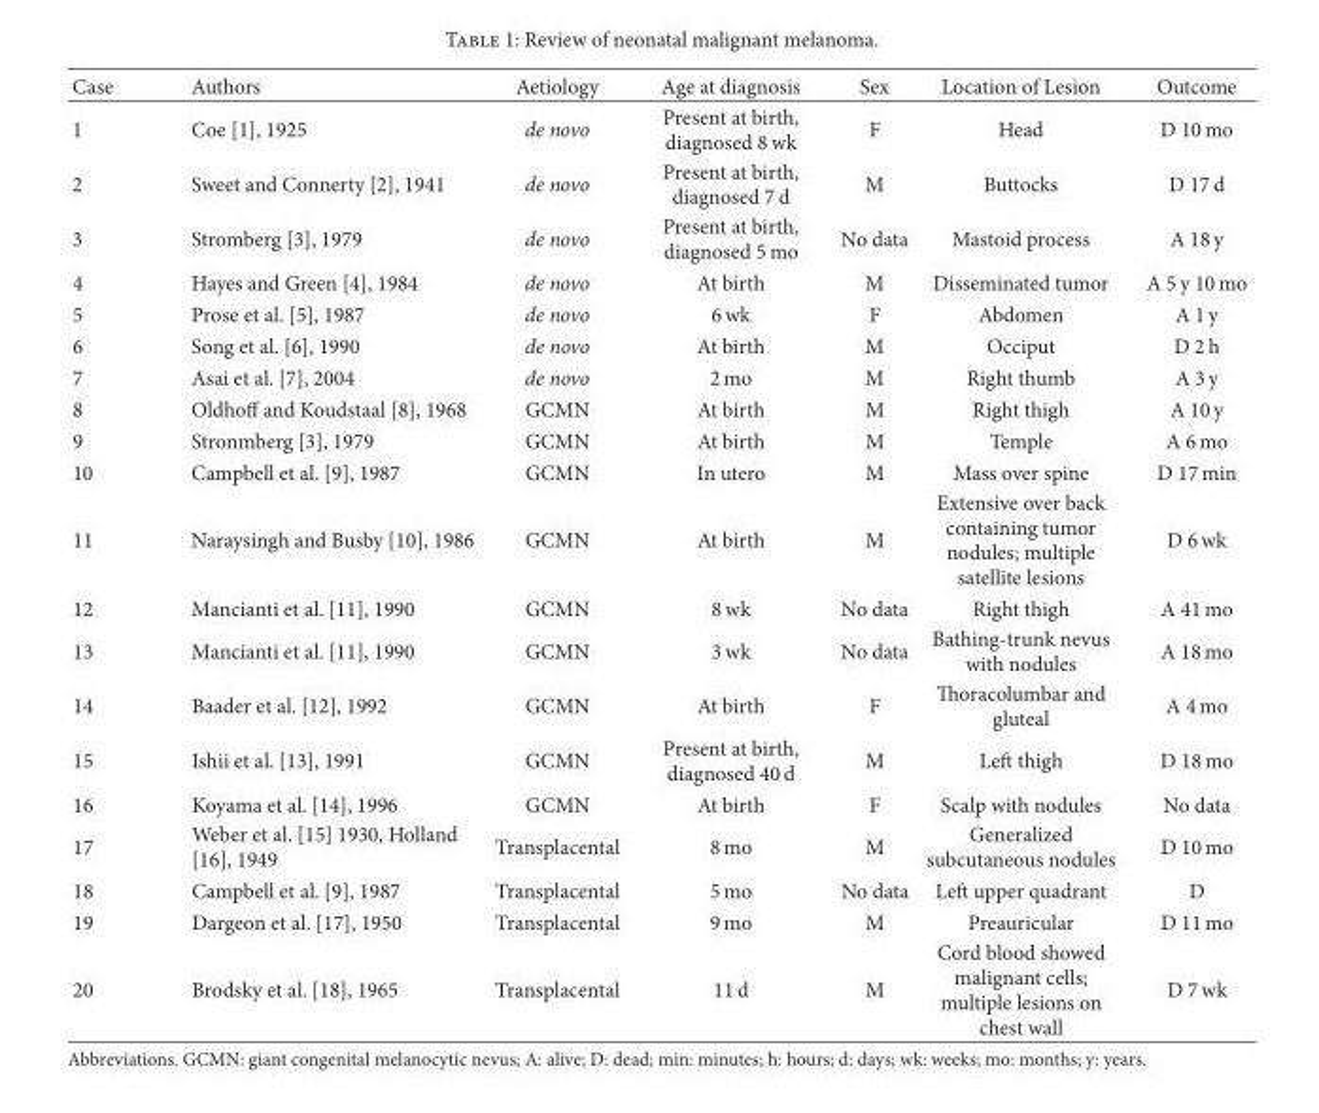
<table><thead><tr><td>Case</td><td>Authors</td><td>Aetiology</td><td>Age at diagnosis</td><td>Sex</td><td>Location of Lesion</td><td>Outcome</td></tr></thead><tbody><tr><td>1</td><td>Coe [1], 1925</td><td>de novo</td><td>Present at birth, diagnosed 8 wk</td><td>F</td><td>Head</td><td>D 10 mo</td></tr><tr><td>2</td><td>Sweet and Connerty [2], 1941</td><td>de novo</td><td>Present at birth, diagnosed 7 d</td><td>M</td><td>Buttocks</td><td>D 17 d</td></tr><tr><td>3</td><td>Stromberg [3], 1979</td><td>de novo</td><td>Present at birth, diagnosed 5 mo</td><td>No data</td><td>Mastoid process</td><td>A 18 y</td></tr><tr><td>4</td><td>Hayes and Green [4], 1984</td><td>de novo</td><td>At birth</td><td>M</td><td>Disseminated tumor</td><td>A 5 y 10 mo</td></tr><tr><td>5</td><td>Prose et al. [5], 1987</td><td>de novo</td><td>6 wk</td><td>F</td><td>Abdomen</td><td>A 1 y</td></tr><tr><td>6</td><td>Song et al. [6], 1990</td><td>de novo</td><td>At birth</td><td>M</td><td>Occiput</td><td>D 2 h</td></tr><tr><td>7</td><td>Asai et al. [7], 2004</td><td>de novo</td><td>2 mo</td><td>M</td><td>Right thumb</td><td>A 3 y</td></tr><tr><td>8</td><td>Oldhoff and Koudstaal [8], 1968</td><td>GCMN</td><td>At birth</td><td>M</td><td>Right thigh</td><td>A 10 y</td></tr><tr><td>9</td><td>Stronmberg [3], 1979</td><td>GCMN</td><td>At birth</td><td>M</td><td>Temple</td><td>A 6 mo</td></tr><tr><td>10</td><td>Campbell et al. [9], 1987</td><td>GCMN</td><td>In utero</td><td>M</td><td>Mass over spine</td><td>D 17 min</td></tr><tr><td>11</td><td>Naraysingh and Busby [10], 1986</td><td>GCMN</td><td>At birth</td><td>M</td><td>Extensive over back containing tumor nodules; multiple satellite lesions</td><td>D 6 wk</td></tr><tr><td>12</td><td>Mancianti et al. [11], 1990</td><td>GCMN</td><td>8 wk</td><td>No data</td><td>Right thigh</td><td>A 41 mo</td></tr><tr><td>13</td><td>Mancianti et al. [11], 1990</td><td>GCMN</td><td>3 wk</td><td>No data</td><td>Bathing-trunk nevus with nodules</td><td>A 18 mo</td></tr><tr><td>14</td><td>Baader et al. [12], 1992</td><td>GCMN</td><td>At birth</td><td>F</td><td>oracolumbar and gluteal</td><td>A 4 mo</td></tr><tr><td>15</td><td>Ishii et al. [13], 1991</td><td>GCMN</td><td>Present at birth, diagnosed 40 d</td><td>M</td><td>Le thigh</td><td>D 18 mo</td></tr><tr><td>16</td><td>Koyama et al. [14], 1996</td><td>GCMN</td><td>At birth</td><td>F</td><td>Scalp with nodules</td><td>No data</td></tr><tr><td>17</td><td>Weber et al. [15] 1930, Holland [16], 1949</td><td>Transplacental</td><td>8 mo</td><td>M</td><td>Generalized subcutaneous nodules</td><td>D 10 mo</td></tr><tr><td>18</td><td>Campbell et al. [9], 1987</td><td>Transplacental</td><td>5 mo</td><td>No data</td><td>Le upper quadrant</td><td>D</td></tr><tr><td>19</td><td>Dargeon et al. [17], 1950</td><td>Transplacental</td><td>9 mo</td><td>M</td><td>Preauricular</td><td>D 11 mo</td></tr><tr><td>20</td><td>Brodsky et al. [18], 1965</td><td>Transplacental</td><td>11 d</td><td>M</td><td>Cord blood showed malignant cells; multiple lesions on chest wall</td><td>D 7 wk</td></tr></tbody></table>